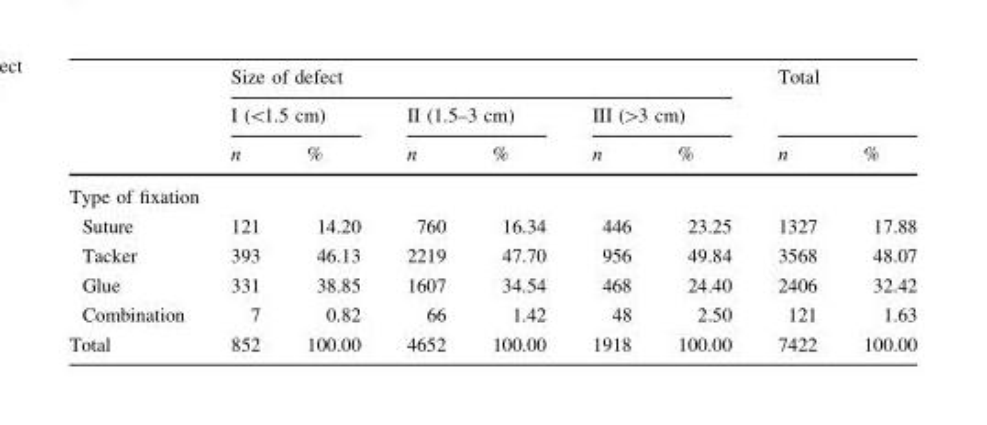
<table><thead><tr><td rowspan="3"></td><td colspan="6">Size of defect</td><td rowspan="2" colspan="2">Total</td></tr><tr><td colspan="2">I (&lt;1.5 cm)</td><td colspan="2">II (1.5–3 cm)</td><td colspan="2">III (&gt;3 cm)</td></tr><tr><td>n</td><td>%</td><td>n</td><td>%</td><td>n</td><td>%</td><td>n</td><td>%</td></tr></thead><tbody><tr><td colspan="9">Type of fixation</td></tr><tr><td>Suture</td><td>121</td><td>14.20</td><td>760</td><td>16.34</td><td>446</td><td>23.25</td><td>1327</td><td>17.88</td></tr><tr><td>Tacker</td><td>393</td><td>46.13</td><td>2219</td><td>47.70</td><td>956</td><td>49.84</td><td>3568</td><td>48.07</td></tr><tr><td>Glue</td><td>331</td><td>38.85</td><td>1607</td><td>34.54</td><td>468</td><td>24.40</td><td>2406</td><td>32.42</td></tr><tr><td>Combination</td><td>7</td><td>0.82</td><td>66</td><td>1.42</td><td>48</td><td>2.50</td><td>121</td><td>1.63</td></tr><tr><td>Total</td><td>852</td><td>100.00</td><td>4652</td><td>100.00</td><td>1918</td><td>100.00</td><td>7422</td><td>100.00</td></tr></tbody></table>